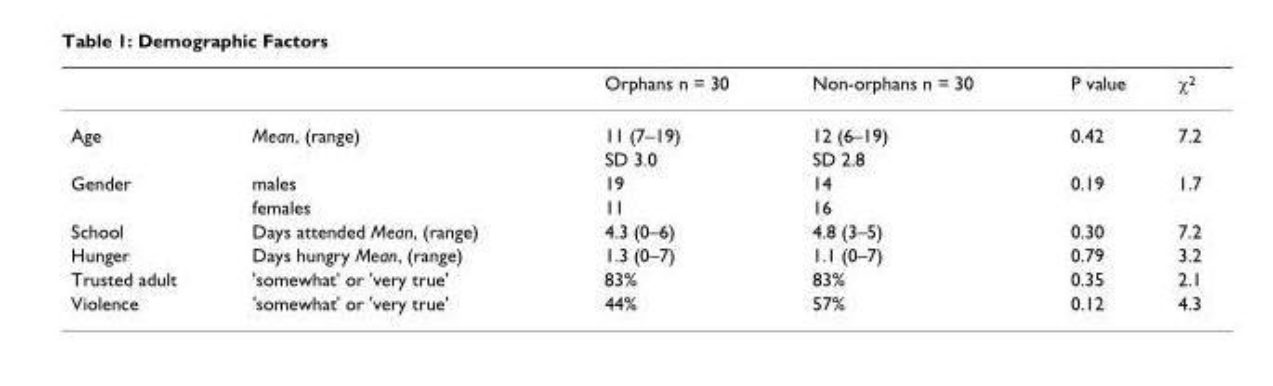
<table><thead><tr><td></td><td></td><td>Orphans n = 30</td><td>Non-orphans n = 30</td><td>P value</td><td>χ<sup>2</sup></td></tr></thead><tbody><tr><td rowspan="2">Age</td><td>Mean, (range)</td><td>11 (7–19)</td><td>12 (6–19)</td><td>0.42</td><td>7.2</td></tr><tr><td></td><td>SD 3.0</td><td>SD 2.8</td><td></td><td></td></tr><tr><td rowspan="2">Gender</td><td>males</td><td>19</td><td>14</td><td>0.19</td><td>1.7</td></tr><tr><td>females</td><td>11</td><td>16</td><td></td><td></td></tr><tr><td>School</td><td>Days attended Mean, (range)</td><td>4.3 (0–6)</td><td>4.8 (3–5)</td><td>0.30</td><td>7.2</td></tr><tr><td>Hunger</td><td>Days hungry Mean, (range)</td><td>1.3 (0–7)</td><td>1.1 (0–7)</td><td>0.79</td><td>3.2</td></tr><tr><td>Trusted adult</td><td>&#x27;somewhat&#x27; or &#x27;very true&#x27;</td><td>83%</td><td>83%</td><td>0.35</td><td>2.1</td></tr><tr><td>Violence</td><td>&#x27;somewhat&#x27; or &#x27;very true&#x27;</td><td>44%</td><td>57%</td><td>0.12</td><td>4.3</td></tr></tbody></table>